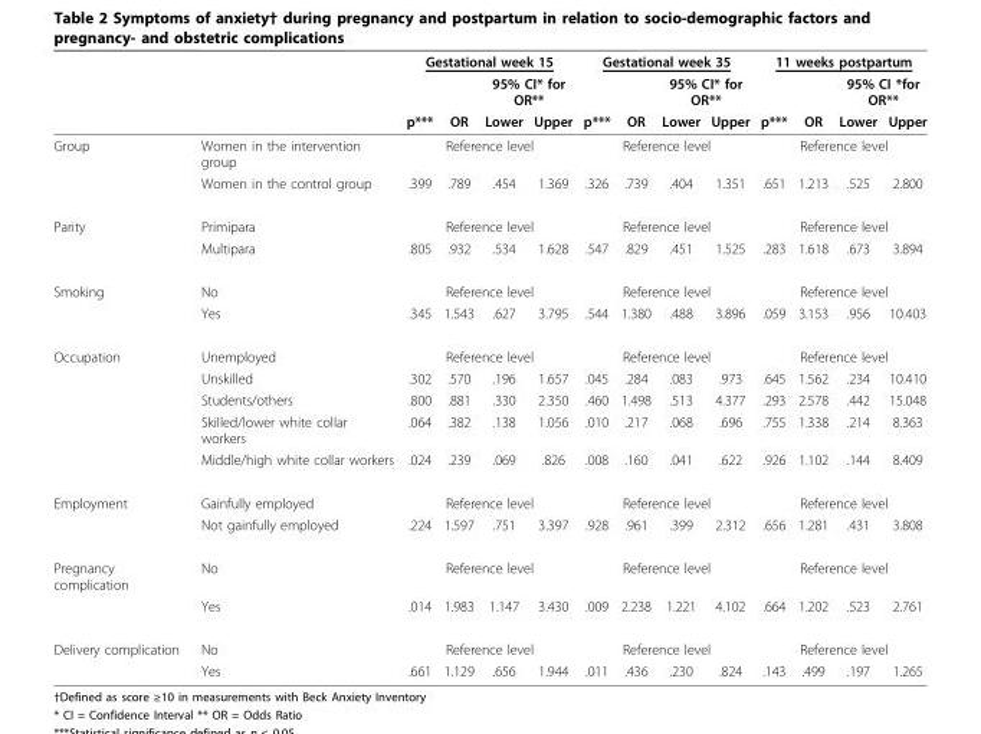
<table><thead><tr><td rowspan="3"></td><td rowspan="3"></td><td colspan="4">Gestational week 15</td><td colspan="4">Gestational week 35</td><td colspan="4">11 weeks postpartum</td></tr><tr><td rowspan="2">p***</td><td rowspan="2">OR</td><td colspan="2">95% CI* for OR**</td><td rowspan="2">p***</td><td rowspan="2">OR</td><td colspan="2">95% CI* for OR**</td><td rowspan="2">p***</td><td rowspan="2">OR</td><td colspan="2">95% CI *for OR**</td></tr><tr><td>Lower</td><td>Upper</td><td>Lower</td><td>Upper</td><td>Lower</td><td>Upper</td></tr></thead><tbody><tr><td rowspan="2">Group</td><td>Women in the intervention group</td><td colspan="4">Reference level</td><td colspan="4">Reference level</td><td colspan="4">Reference level</td></tr><tr><td>Women in the control group</td><td>.399</td><td>.789</td><td>.454</td><td>1.369</td><td>.326</td><td>.739</td><td>.404</td><td>1.351</td><td>.651</td><td>1.213</td><td>.525</td><td>2.800</td></tr><tr><td rowspan="2">Parity</td><td>Primipara</td><td colspan="4">Reference level</td><td colspan="4">Reference level</td><td colspan="4">Reference level</td></tr><tr><td>Multipara</td><td>.805</td><td>.932</td><td>.534</td><td>1.628</td><td>.547</td><td>.829</td><td>.451</td><td>1.525</td><td>.283</td><td>1.618</td><td>.673</td><td>3.894</td></tr><tr><td rowspan="2">Smoking</td><td>No</td><td colspan="4">Reference level</td><td colspan="4">Reference level</td><td colspan="4">Reference level</td></tr><tr><td>Yes</td><td>.345</td><td>1.543</td><td>.627</td><td>3.795</td><td>.544</td><td>1.380</td><td>.488</td><td>3.896</td><td>.059</td><td>3.153</td><td>.956</td><td>10.403</td></tr><tr><td rowspan="5">Occupation</td><td>Unemployed</td><td colspan="4">Reference level</td><td colspan="4">Reference level</td><td colspan="4">Reference level</td></tr><tr><td>Unskilled</td><td>.302</td><td>.570</td><td>.196</td><td>1.657</td><td>.045</td><td>.284</td><td>.083</td><td>.973</td><td>.645</td><td>1.562</td><td>.234</td><td>10.410</td></tr><tr><td>Students/others</td><td>.800</td><td>.881</td><td>.330</td><td>2.350</td><td>.460</td><td>1.498</td><td>.513</td><td>4.377</td><td>.293</td><td>2.578</td><td>.442</td><td>15.048</td></tr><tr><td>Skilled/lower white collar workers</td><td>.064</td><td>.382</td><td>.138</td><td>1.056</td><td>.010</td><td>.217</td><td>.068</td><td>.696</td><td>.755</td><td>1.338</td><td>.214</td><td>8.363</td></tr><tr><td>Middle/high white collar workers</td><td>.024</td><td>.239</td><td>.069</td><td>.826</td><td>.008</td><td>.160</td><td>.041</td><td>.622</td><td>.926</td><td>1.102</td><td>.144</td><td>8.409</td></tr><tr><td rowspan="2">Employment</td><td>Gainfully employed</td><td colspan="4">Reference level</td><td colspan="4">Reference level</td><td colspan="4">Reference level</td></tr><tr><td>Not gainfully employed</td><td>.224</td><td>1.597</td><td>.751</td><td>3.397</td><td>.928</td><td>.961</td><td>.399</td><td>2.312</td><td>.656</td><td>1.281</td><td>.431</td><td>3.808</td></tr><tr><td rowspan="2">Pregnancy complication</td><td>No</td><td colspan="4">Reference level</td><td colspan="4">Reference level</td><td colspan="4">Reference level</td></tr><tr><td>Yes</td><td>.014</td><td>1.983</td><td>1.147</td><td>3.430</td><td>.009</td><td>2.238</td><td>1.221</td><td>4.102</td><td>.664</td><td>1.202</td><td>.523</td><td>2.761</td></tr><tr><td rowspan="2">Delivery complication</td><td>No</td><td colspan="4">Reference level</td><td colspan="4">Reference level</td><td colspan="4">Reference level</td></tr><tr><td>Yes</td><td>.661</td><td>1.129</td><td>.656</td><td>1.944</td><td>.011</td><td>.436</td><td>.230</td><td>.824</td><td>.143</td><td>.499</td><td>.197</td><td>1.265</td></tr></tbody></table>